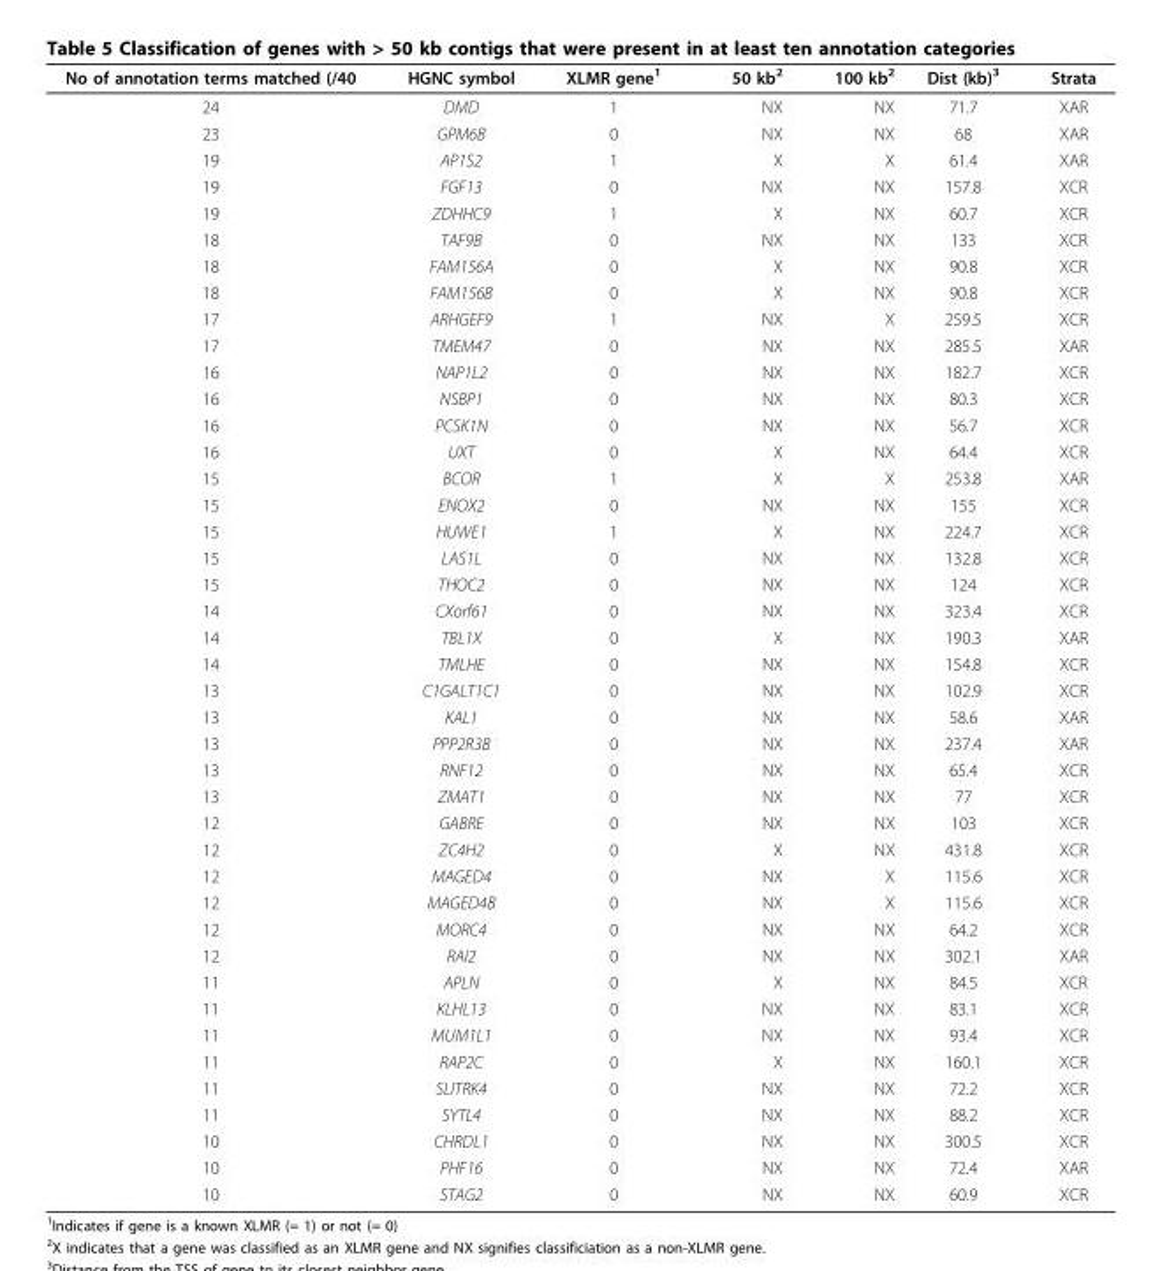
<table><thead><tr><td>No of annotation terms matched (/40</td><td>HGNC symbol</td><td>XLMR gene<sup>1</sup></td><td>50 kb<sup>2</sup></td><td>100 kb<sup>2</sup></td><td>Dist (kb)<sup>3</sup></td><td>Strata</td></tr></thead><tbody><tr><td>24</td><td>DMD</td><td>1</td><td>NX</td><td>NX</td><td>71.7</td><td>XAR</td></tr><tr><td>23</td><td>GPM6B</td><td>0</td><td>NX</td><td>NX</td><td>68</td><td>XAR</td></tr><tr><td>19</td><td>AP1S2</td><td>1</td><td>X</td><td>X</td><td>61.4</td><td>XAR</td></tr><tr><td>19</td><td>FGF13</td><td>0</td><td>NX</td><td>NX</td><td>157.8</td><td>XCR</td></tr><tr><td>19</td><td>ZDHHC9</td><td>1</td><td>X</td><td>NX</td><td>60.7</td><td>XCR</td></tr><tr><td>18</td><td>TAF9B</td><td>0</td><td>NX</td><td>NX</td><td>133</td><td>XCR</td></tr><tr><td>18</td><td>FAM156A</td><td>0</td><td>X</td><td>NX</td><td>90.8</td><td>XCR</td></tr><tr><td>18</td><td>FAM156B</td><td>0</td><td>X</td><td>NX</td><td>90.8</td><td>XCR</td></tr><tr><td>17</td><td>ARHGEF9</td><td>1</td><td>NX</td><td>X</td><td>259.5</td><td>XCR</td></tr><tr><td>17</td><td>TMEM47</td><td>0</td><td>NX</td><td>NX</td><td>285.5</td><td>XAR</td></tr><tr><td>16</td><td>NAP1L2</td><td>0</td><td>NX</td><td>NX</td><td>182.7</td><td>XCR</td></tr><tr><td>16</td><td>NSBP1</td><td>0</td><td>NX</td><td>NX</td><td>80.3</td><td>XCR</td></tr><tr><td>16</td><td>PCSK1N</td><td>0</td><td>NX</td><td>NX</td><td>56.7</td><td>XCR</td></tr><tr><td>16</td><td>UXT</td><td>0</td><td>X</td><td>NX</td><td>64.4</td><td>XCR</td></tr><tr><td>15</td><td>BCOR</td><td>1</td><td>X</td><td>X</td><td>253.8</td><td>XAR</td></tr><tr><td>15</td><td>ENOX2</td><td>0</td><td>NX</td><td>NX</td><td>155</td><td>XCR</td></tr><tr><td>15</td><td>HUWE1</td><td>1</td><td>X</td><td>NX</td><td>224.7</td><td>XCR</td></tr><tr><td>15</td><td>LAS1L</td><td>0</td><td>NX</td><td>NX</td><td>132.8</td><td>XCR</td></tr><tr><td>15</td><td>THOC2</td><td>0</td><td>NX</td><td>NX</td><td>124</td><td>XCR</td></tr><tr><td>14</td><td>CXorf61</td><td>0</td><td>NX</td><td>NX</td><td>323.4</td><td>XCR</td></tr><tr><td>14</td><td>TBL1X</td><td>0</td><td>X</td><td>NX</td><td>190.3</td><td>XAR</td></tr><tr><td>14</td><td>TMLHE</td><td>0</td><td>NX</td><td>NX</td><td>154.8</td><td>XCR</td></tr><tr><td>13</td><td>C1GALT1C1</td><td>0</td><td>NX</td><td>NX</td><td>102.9</td><td>XCR</td></tr><tr><td>13</td><td>KAL1</td><td>0</td><td>NX</td><td>NX</td><td>58.6</td><td>XAR</td></tr><tr><td>13</td><td>PPP2R3B</td><td>0</td><td>NX</td><td>NX</td><td>237.4</td><td>XAR</td></tr><tr><td>13</td><td>RNF12</td><td>0</td><td>NX</td><td>NX</td><td>65.4</td><td>XCR</td></tr><tr><td>13</td><td>ZMAT1</td><td>0</td><td>NX</td><td>NX</td><td>77</td><td>XCR</td></tr><tr><td>12</td><td>GABRE</td><td>0</td><td>NX</td><td>NX</td><td>103</td><td>XCR</td></tr><tr><td>12</td><td>ZC4H2</td><td>0</td><td>X</td><td>NX</td><td>431.8</td><td>XCR</td></tr><tr><td>12</td><td>MAGED4</td><td>0</td><td>NX</td><td>X</td><td>115.6</td><td>XCR</td></tr><tr><td>12</td><td>MAGED4B</td><td>0</td><td>NX</td><td>X</td><td>115.6</td><td>XCR</td></tr><tr><td>12</td><td>MORC4</td><td>0</td><td>NX</td><td>NX</td><td>64.2</td><td>XCR</td></tr><tr><td>12</td><td>RAI2</td><td>0</td><td>NX</td><td>NX</td><td>302.1</td><td>XAR</td></tr><tr><td>11</td><td>APLN</td><td>0</td><td>X</td><td>NX</td><td>84.5</td><td>XCR</td></tr><tr><td>11</td><td>KLHL13</td><td>0</td><td>NX</td><td>NX</td><td>83.1</td><td>XCR</td></tr><tr><td>11</td><td>MUM1L1</td><td>0</td><td>NX</td><td>NX</td><td>93.4</td><td>XCR</td></tr><tr><td>11</td><td>RAP2C</td><td>0</td><td>X</td><td>NX</td><td>160.1</td><td>XCR</td></tr><tr><td>11</td><td>SLITRK4</td><td>0</td><td>NX</td><td>NX</td><td>72.2</td><td>XCR</td></tr><tr><td>11</td><td>SYTL4</td><td>0</td><td>NX</td><td>NX</td><td>88.2</td><td>XCR</td></tr><tr><td>10</td><td>CHRDL1</td><td>0</td><td>NX</td><td>NX</td><td>300.5</td><td>XCR</td></tr><tr><td>10</td><td>PHF16</td><td>0</td><td>NX</td><td>NX</td><td>72.4</td><td>XAR</td></tr><tr><td>10</td><td>STAG2</td><td>0</td><td>NX</td><td>NX</td><td>60.9</td><td>XCR</td></tr></tbody></table>